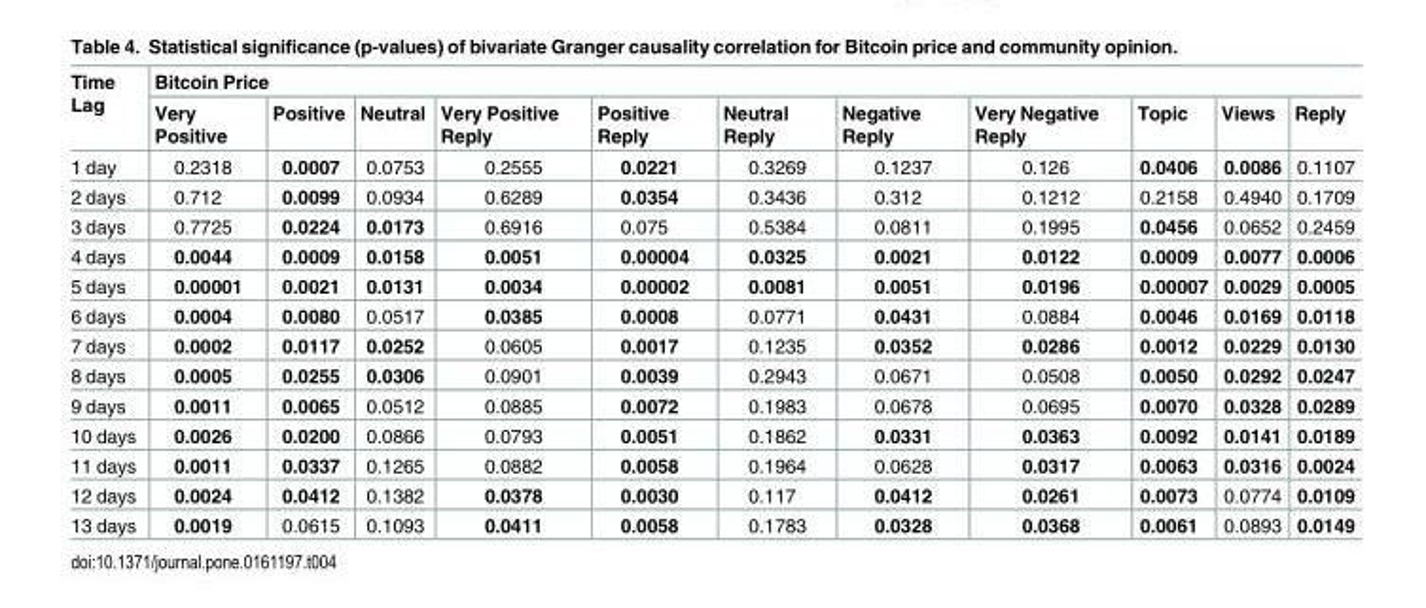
<table><thead><tr><td rowspan="2">Time Lag</td><td colspan="11">Bitcoin Price</td></tr><tr><td>Very Positive</td><td>Positive</td><td>Neutral</td><td>Very Positive Reply</td><td>Positive Reply</td><td>Neutral Reply</td><td>Negative Reply</td><td>Very Negative Reply</td><td>Topic</td><td>Views</td><td>Reply</td></tr></thead><tbody><tr><td>1 day</td><td>0.2318</td><td>0.0007</td><td>0.0753</td><td>0.2555</td><td>0.0221</td><td>0.3269</td><td>0.1237</td><td>0.126</td><td>0.0406</td><td>0.0086</td><td>0.1107</td></tr><tr><td>2 days</td><td>0.712</td><td>0.0099</td><td>0.0934</td><td>0.6289</td><td>0.0354</td><td>0.3436</td><td>0.312</td><td>0.1212</td><td>0.2158</td><td>0.4940</td><td>0.1709</td></tr><tr><td>3 days</td><td>0.7725</td><td>0.0224</td><td>0.0173</td><td>0.6916</td><td>0.075</td><td>0.5384</td><td>0.0811</td><td>0.1995</td><td>0.0456</td><td>0.0652</td><td>0.2459</td></tr><tr><td>4 days</td><td>0.0044</td><td>0.0009</td><td>0.0158</td><td>0.0051</td><td>0.00004</td><td>0.0325</td><td>0.0021</td><td>0.0122</td><td>0.0009</td><td>0.0077</td><td>0.0006</td></tr><tr><td>5 days</td><td>0.00001</td><td>0.0021</td><td>0.0131</td><td>0.0034</td><td>0.00002</td><td>0.0081</td><td>0.0051</td><td>0.0196</td><td>0.00007</td><td>0.0029</td><td>0.0005</td></tr><tr><td>6 days</td><td>0.0004</td><td>0.0080</td><td>0.0517</td><td>0.0385</td><td>0.0008</td><td>0.0771</td><td>0.0431</td><td>0.0884</td><td>0.0046</td><td>0.0169</td><td>0.0118</td></tr><tr><td>7 days</td><td>0.0002</td><td>0.0117</td><td>0.0252</td><td>0.0605</td><td>0.0017</td><td>0.1235</td><td>0.0352</td><td>0.0286</td><td>0.0012</td><td>0.0229</td><td>0.0130</td></tr><tr><td>8 days</td><td>0.0005</td><td>0.0255</td><td>0.0306</td><td>0.0901</td><td>0.0039</td><td>0.2943</td><td>0.0671</td><td>0.0508</td><td>0.0050</td><td>0.0292</td><td>0.0247</td></tr><tr><td>9 days</td><td>0.0011</td><td>0.0065</td><td>0.0512</td><td>0.0885</td><td>0.0072</td><td>0.1983</td><td>0.0678</td><td>0.0695</td><td>0.0070</td><td>0.0328</td><td>0.0289</td></tr><tr><td>10 days</td><td>0.0026</td><td>0.0200</td><td>0.0866</td><td>0.0793</td><td>0.0051</td><td>0.1862</td><td>0.0331</td><td>0.0363</td><td>0.0092</td><td>0.0141</td><td>0.0189</td></tr><tr><td>11 days</td><td>0.0011</td><td>0.0337</td><td>0.1265</td><td>0.0882</td><td>0.0058</td><td>0.1964</td><td>0.0628</td><td>0.0317</td><td>0.0063</td><td>0.0316</td><td>0.0024</td></tr><tr><td>12 days</td><td>0.0024</td><td>0.0412</td><td>0.1382</td><td>0.0378</td><td>0.0030</td><td>0.117</td><td>0.0412</td><td>0.0261</td><td>0.0073</td><td>0.0774</td><td>0.0109</td></tr><tr><td>13 days</td><td>0.0019</td><td>0.0615</td><td>0.1093</td><td>0.0411</td><td>0.0058</td><td>0.1783</td><td>0.0328</td><td>0.0368</td><td>0.0061</td><td>0.0893</td><td>0.0149</td></tr></tbody></table>